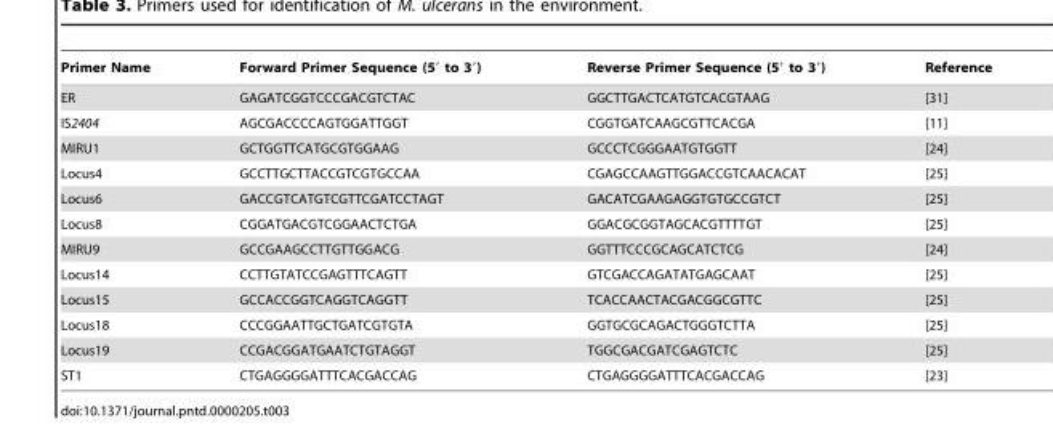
<table><thead><tr><td>Primer Name</td><td>Forward Primer Sequence (5′ to 3′)</td><td>Reverse Primer Sequence (5′ to 3′)</td><td>Reference</td></tr></thead><tbody><tr><td>ER</td><td>GAGATCGGTCCCGACGTCTAC</td><td>GGCTTGACTCATGTCACGTAAG</td><td>[31]</td></tr><tr><td>IS2404</td><td>AGCGACCCCAGTGGATTGGT</td><td>CGGTGATCAAGCGTTCACGA</td><td>[11]</td></tr><tr><td>MIRU1</td><td>GCTGGTTCATGCGTGGAAG</td><td>GCCCTCGGGAATGTGGTT</td><td>[24]</td></tr><tr><td>Locus4</td><td>GCCTTGCTTACCGTCGTGCCAA</td><td>CGAGCCAAGTTGGACCGTCAACACAT</td><td>[25]</td></tr><tr><td>Locus6</td><td>GACCGTCATGTCGTTCGATCCTAGT</td><td>GACATCGAAGAGGTGTGCCGTCT</td><td>[25]</td></tr><tr><td>Locus8</td><td>CGGATGACGTCGGAACTCTGA</td><td>GGACGCGGTAGCACGTTTTGT</td><td>[25]</td></tr><tr><td>MIRU9</td><td>GCCGAAGCCTTGTTGGACG</td><td>GGTTTCCCGCAGCATCTCG</td><td>[24]</td></tr><tr><td>Locus14</td><td>CCTTGTATCCGAGTTTCAGTT</td><td>GTCGACCAGATATGAGCAAT</td><td>[25]</td></tr><tr><td>Locus15</td><td>GCCACCGGTCAGGTCAGGTT</td><td>TCACCAACTACGACGGCGTTC</td><td>[25]</td></tr><tr><td>Locus18</td><td>CCCGGAATTGCTGATCGTGTA</td><td>GGTGCGCAGACTGGGTCTTA</td><td>[25]</td></tr><tr><td>Locus19</td><td>CCGACGGATGAATCTGTAGGT</td><td>TGGCGACGATCGAGTCTC</td><td>[25]</td></tr><tr><td>ST1</td><td>CTGAGGGGATTTCACGACCAG</td><td>CTGAGGGGATTTCACGACCAG</td><td>[23]</td></tr></tbody></table>